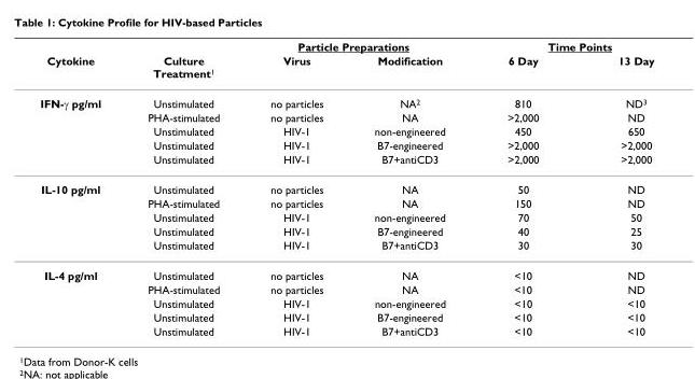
<table><thead><tr><td rowspan="2">Cytokine</td><td rowspan="2">Culture Treatment<sup>1</sup></td><td colspan="2">Particle Preparations</td><td colspan="2">Time Points</td></tr><tr><td>Virus</td><td>Modification</td><td>6 Day</td><td>13 Day</td></tr></thead><tbody><tr><td rowspan="5">IFN-γ pg/ml</td><td>Unstimulated</td><td>no particles</td><td>NA<sup>2</sup></td><td>810</td><td>ND<sup>3</sup></td></tr><tr><td>PHA-stimulated</td><td>no particles</td><td>NA</td><td>&gt;2,000</td><td>ND</td></tr><tr><td>Unstimulated</td><td>HIV-1</td><td>non-engineered</td><td>450</td><td>650</td></tr><tr><td>Unstimulated</td><td>HIV-1</td><td>B7-engineered</td><td>&gt;2,000</td><td>&gt;2,000</td></tr><tr><td>Unstimulated</td><td>HIV-1</td><td>B7+antiCD3</td><td>&gt;2,000</td><td>&gt;2,000</td></tr><tr><td rowspan="5">IL-10 pg/ml</td><td>Unstimulated</td><td>no particles</td><td>NA</td><td>50</td><td>ND</td></tr><tr><td>PHA-stimulated</td><td>no particles</td><td>NA</td><td>150</td><td>ND</td></tr><tr><td>Unstimulated</td><td>HIV-1</td><td>non-engineered</td><td>70</td><td>50</td></tr><tr><td>Unstimulated</td><td>HIV-1</td><td>B7-engineered</td><td>40</td><td>25</td></tr><tr><td>Unstimulated</td><td>HIV-1</td><td>B7+antiCD3</td><td>30</td><td>30</td></tr><tr><td rowspan="5">IL-4 pg/ml</td><td>Unstimulated</td><td>no particles</td><td>NA</td><td>&lt;10</td><td>ND</td></tr><tr><td>PHA-stimulated</td><td>no particles</td><td>NA</td><td>&lt;10</td><td>ND</td></tr><tr><td>Unstimulated</td><td>HIV-1</td><td>non-engineered</td><td>&lt;10</td><td>&lt;10</td></tr><tr><td>Unstimulated</td><td>HIV-1</td><td>B7-engineered</td><td>&lt;10</td><td>&lt;10</td></tr><tr><td>Unstimulated</td><td>HIV-1</td><td>B7+antiCD3</td><td>&lt;10</td><td>&lt;10</td></tr></tbody></table>